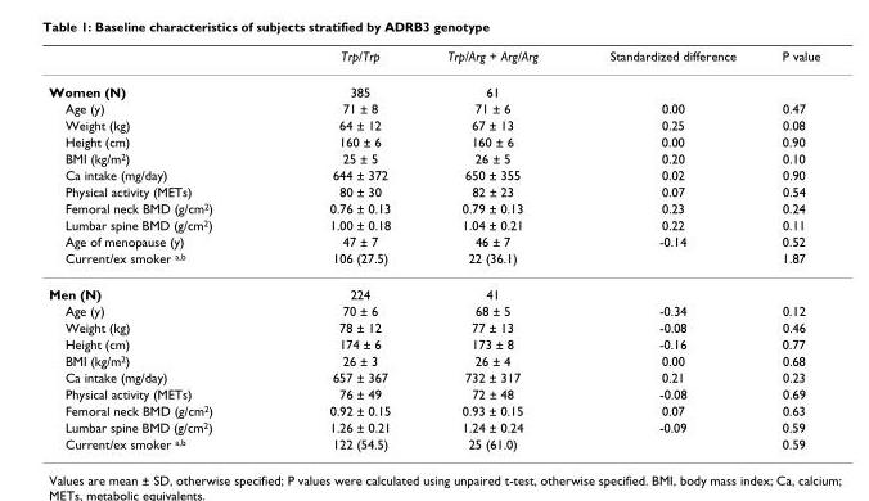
<table><thead><tr><td></td><td>Trp/Trp</td><td>Trp/Arg + Arg/Arg</td><td>Standardized difference</td><td>P value</td></tr></thead><tbody><tr><td>Women (N)</td><td>385</td><td>61</td><td></td><td></td></tr><tr><td>Age (y)</td><td>71 ± 8</td><td>71 ± 6</td><td>0.00</td><td>0.47</td></tr><tr><td>Weight (kg)</td><td>64 ± 12</td><td>67 ± 13</td><td>0.25</td><td>0.08</td></tr><tr><td>Height (cm)</td><td>160 ± 6</td><td>160 ± 6</td><td>0.00</td><td>0.90</td></tr><tr><td>BMI (kg/m<sup>2</sup>)</td><td>25 ± 5</td><td>26 ± 5</td><td>0.20</td><td>0.10</td></tr><tr><td>Ca intake (mg/day)</td><td>644 ± 372</td><td>650 ± 355</td><td>0.02</td><td>0.90</td></tr><tr><td>Physical activity (METs)</td><td>80 ± 30</td><td>82 ± 23</td><td>0.07</td><td>0.54</td></tr><tr><td>Femoral neck BMD (g/cm<sup>2</sup>)</td><td>0.76 ± 0.13</td><td>0.79 ± 0.13</td><td>0.23</td><td>0.24</td></tr><tr><td>Lumbar spine BMD (g/cm<sup>2</sup>)</td><td>1.00 ± 0.18</td><td>1.04 ± 0.21</td><td>0.22</td><td>0.11</td></tr><tr><td>Age of menopause (y)</td><td>47 ± 7</td><td>46 ± 7</td><td>-0.14</td><td>0.52</td></tr><tr><td>Current/ex smoker <sup>a,b</sup></td><td>106 (27.5)</td><td>22 (36.1)</td><td></td><td>1.87</td></tr><tr><td>Men (N)</td><td>224</td><td>41</td><td></td><td></td></tr><tr><td>Age (y)</td><td>70 ± 6</td><td>68 ± 5</td><td>-0.34</td><td>0.12</td></tr><tr><td>Weight (kg)</td><td>78 ± 12</td><td>77 ± 13</td><td>-0.08</td><td>0.46</td></tr><tr><td>Height (cm)</td><td>174 ± 6</td><td>173 ± 8</td><td>-0.16</td><td>0.77</td></tr><tr><td>BMI (kg/m<sup>2</sup>)</td><td>26 ± 3</td><td>26 ± 4</td><td>0.00</td><td>0.68</td></tr><tr><td>Ca intake (mg/day)</td><td>657 ± 367</td><td>732 ± 317</td><td>0.21</td><td>0.23</td></tr><tr><td>Physical activity (METs)</td><td>76 ± 49</td><td>72 ± 48</td><td>-0.08</td><td>0.69</td></tr><tr><td>Femoral neck BMD (g/cm<sup>2</sup>)</td><td>0.92 ± 0.15</td><td>0.93 ± 0.15</td><td>0.07</td><td>0.63</td></tr><tr><td>Lumbar spine BMD (g/cm<sup>2</sup>)</td><td>1.26 ± 0.21</td><td>1.24 ± 0.24</td><td>-0.09</td><td>0.59</td></tr><tr><td>Current/ex smoker <sup>a,b</sup></td><td>122 (54.5)</td><td>25 (61.0)</td><td></td><td>0.59</td></tr></tbody></table>